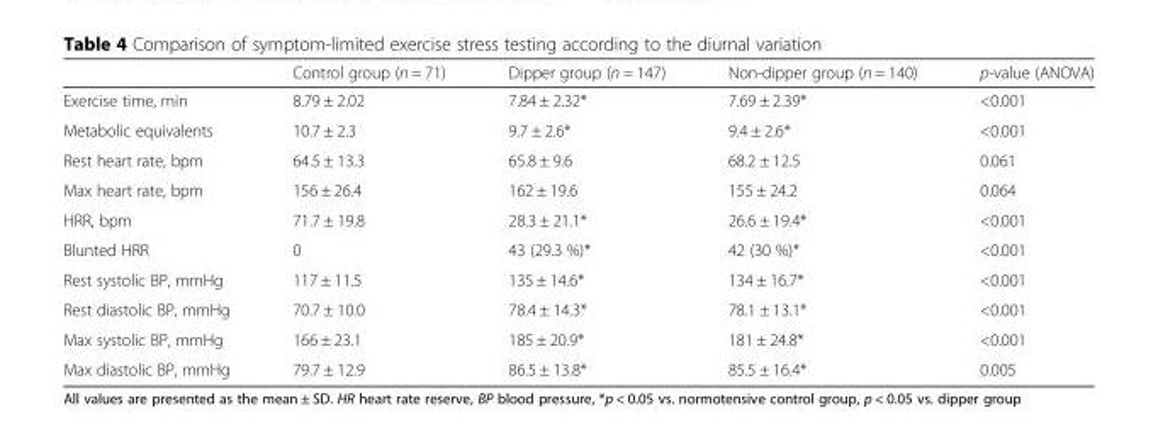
<table><thead><tr><td></td><td>Control group (n = 71)</td><td>Dipper group (n = 147)</td><td>Non-dipper group (n = 140)</td><td>p-value (ANOVA)</td></tr></thead><tbody><tr><td>Exercise time, min</td><td>8.79 ± 2.02</td><td>7.84 ± 2.32*</td><td>7.69 ± 2.39*</td><td>&lt;0.001</td></tr><tr><td>Metabolic equivalents</td><td>10.7 ± 2.3</td><td>9.7 ± 2.6*</td><td>9.4 ± 2.6*</td><td>&lt;0.001</td></tr><tr><td>Rest heart rate, bpm</td><td>64.5 ± 13.3</td><td>65.8 ± 9.6</td><td>68.2 ± 12.5</td><td>0.061</td></tr><tr><td>Max heart rate, bpm</td><td>156 ± 26.4</td><td>162 ± 19.6</td><td>155 ± 24.2</td><td>0.064</td></tr><tr><td>HRR, bpm</td><td>71.7 ± 19.8</td><td>28.3 ± 21.1*</td><td>26.6 ± 19.4*</td><td>&lt;0.001</td></tr><tr><td>Blunted HRR</td><td>0</td><td>43 (29.3 %)*</td><td>42 (30 %)*</td><td>&lt;0.001</td></tr><tr><td>Rest systolic BP, mmHg</td><td>117 ± 11.5</td><td>135 ± 14.6*</td><td>134 ± 16.7*</td><td>&lt;0.001</td></tr><tr><td>Rest diastolic BP, mmHg</td><td>70.7 ± 10.0</td><td>78.4 ± 14.3*</td><td>78.1 ± 13.1*</td><td>&lt;0.001</td></tr><tr><td>Max systolic BP, mmHg</td><td>166 ± 23.1</td><td>185 ± 20.9*</td><td>181 ± 24.8*</td><td>&lt;0.001</td></tr><tr><td>Max diastolic BP, mmHg</td><td>79.7 ± 12.9</td><td>86.5 ± 13.8*</td><td>85.5 ± 16.4*</td><td>0.005</td></tr></tbody></table>